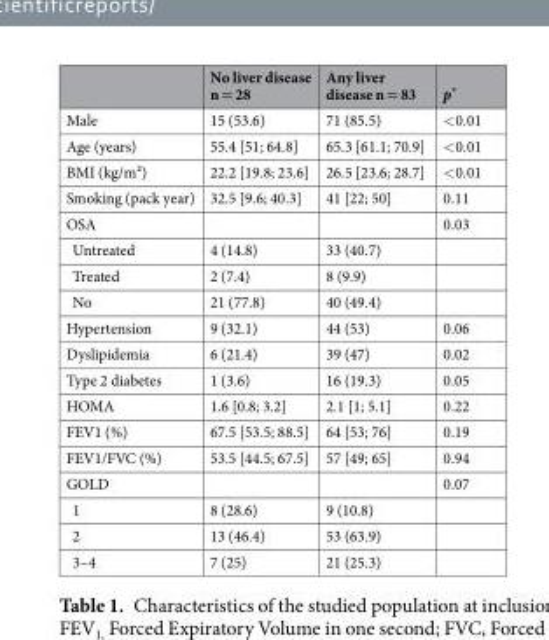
<table><thead><tr><td></td><td>No liver disease n = 28</td><td>Any liver disease n = 83</td><td>p*</td></tr></thead><tbody><tr><td>Male</td><td>15 (53.6)</td><td>71 (85.5)</td><td>&lt;0.01</td></tr><tr><td>Age (years)</td><td>55.4 [51; 64.8]</td><td>65.3 [61.1; 70.9]</td><td>&lt;0.01</td></tr><tr><td>BMI (kg/m²)</td><td>22.2 [19.8; 23.6]</td><td>26.5 [23.6; 28.7]</td><td>&lt;0.01</td></tr><tr><td>Smoking (pack year)</td><td>32.5 [9.6; 40.3]</td><td>41 [22; 50]</td><td>0.11</td></tr><tr><td>OSA</td><td></td><td></td><td>0.03</td></tr><tr><td>Untreated</td><td>4 (14.8)</td><td>33 (40.7)</td><td></td></tr><tr><td>Treated</td><td>2 (7.4)</td><td>8 (9.9)</td><td></td></tr><tr><td>No</td><td>21 (77.8)</td><td>40 (49.4)</td><td></td></tr><tr><td>Hypertension</td><td>9 (32.1)</td><td>44 (53)</td><td>0.06</td></tr><tr><td>Dyslipidemia</td><td>6 (21.4)</td><td>39 (47)</td><td>0.02</td></tr><tr><td>Type 2 diabetes</td><td>1 (3.6)</td><td>16 (19.3)</td><td>0.05</td></tr><tr><td>HOMA</td><td>1.6 [0.8; 3.2]</td><td>2.1 [1; 5.1]</td><td>0.22</td></tr><tr><td>FEV1 (%)</td><td>67.5 [53.5; 88.5]</td><td>64 [53; 76]</td><td>0.19</td></tr><tr><td>FEV1/FVC (%)</td><td>53.5 [44.5; 67.5]</td><td>57 [49; 65]</td><td>0.94</td></tr><tr><td>GOLD</td><td></td><td></td><td>0.07</td></tr><tr><td>1</td><td>8 (28.6)</td><td>9 (10.8)</td><td></td></tr><tr><td>2</td><td>13 (46.4)</td><td>53 (63.9)</td><td></td></tr><tr><td>3–4</td><td>7 (25)</td><td>21 (25.3)</td><td></td></tr></tbody></table>